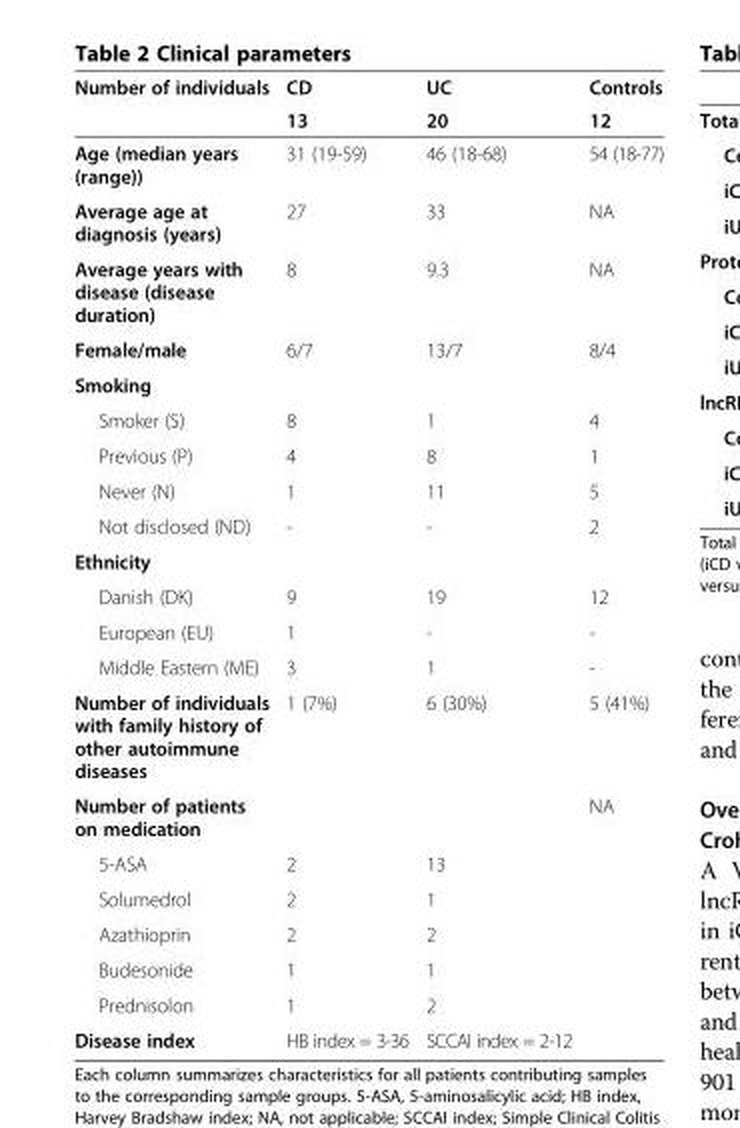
<table><thead><tr><td rowspan="2">Number of individuals</td><td rowspan="2">CD 13</td><td rowspan="2">UC 20</td><td rowspan="2">Controls 12</td></tr><tr></tr></thead><tbody><tr><td>Age (median years (range))</td><td>31 (19-59)</td><td>46 (18-68)</td><td>54 (18-77)</td></tr><tr><td>Average age at diagnosis (years)</td><td>27</td><td>33</td><td>NA</td></tr><tr><td>Average years with disease (disease duration)</td><td>8</td><td>9.3</td><td>NA</td></tr><tr><td>Female/male</td><td>6/7</td><td>13/7</td><td>8/4</td></tr><tr><td colspan="4">Smoking</td></tr><tr><td>Smoker (S)</td><td>8</td><td>1</td><td>4</td></tr><tr><td>Previous (P)</td><td>4</td><td>8</td><td>1</td></tr><tr><td>Never (N)</td><td>1</td><td>11</td><td>5</td></tr><tr><td>Not disclosed (ND)</td><td>-</td><td>-</td><td>2</td></tr><tr><td colspan="4">Ethnicity</td></tr><tr><td>Danish (DK)</td><td>9</td><td>19</td><td>12</td></tr><tr><td>European (EU)</td><td>1</td><td>-</td><td>-</td></tr><tr><td>Middle Eastern (ME)</td><td>3</td><td>1</td><td>-</td></tr><tr><td>Number of individuals with family history of other autoimmune diseases</td><td>1 (7%)</td><td>6 (30%)</td><td>5 (41%)</td></tr><tr><td>Number of patients on medication</td><td></td><td></td><td>NA</td></tr><tr><td>5-ASA</td><td>2</td><td>13</td><td></td></tr><tr><td>Solumedrol</td><td>2</td><td>1</td><td></td></tr><tr><td>Azathioprin</td><td>2</td><td>2</td><td></td></tr><tr><td>Budesonide</td><td>1</td><td>1</td><td></td></tr><tr><td>Prednisolon</td><td>1</td><td>2</td><td></td></tr><tr><td>Disease index</td><td>HB index = 3-36</td><td>SCCAI index = 2-12</td><td></td></tr></tbody></table>